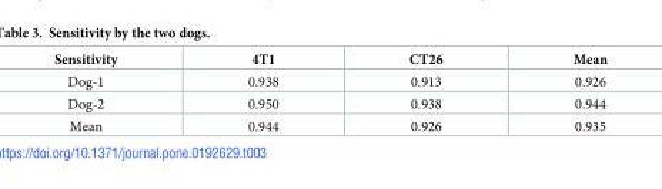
<table><thead><tr><td>Sensitivity</td><td>4T1</td><td>CT26</td><td>Mean</td></tr></thead><tbody><tr><td>Dog-1</td><td>0.938</td><td>0.913</td><td>0.926</td></tr><tr><td>Dog-2</td><td>0.950</td><td>0.938</td><td>0.944</td></tr><tr><td>Mean</td><td>0.944</td><td>0.926</td><td>0.935</td></tr></tbody></table>